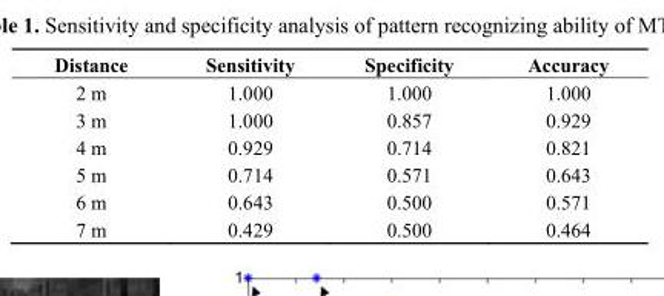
<table><thead><tr><td>Distance</td><td>Sensitivity</td><td>Specificity</td><td>Accuracy</td></tr></thead><tbody><tr><td>2 m</td><td>1.000</td><td>1.000</td><td>1.000</td></tr><tr><td>3 m</td><td>1.000</td><td>0.857</td><td>0.929</td></tr><tr><td>4 m</td><td>0.929</td><td>0.714</td><td>0.821</td></tr><tr><td>5 m</td><td>0.714</td><td>0.571</td><td>0.643</td></tr><tr><td>6 m</td><td>0.643</td><td>0.500</td><td>0.571</td></tr><tr><td>7 m</td><td>0.429</td><td>0.500</td><td>0.464</td></tr></tbody></table>